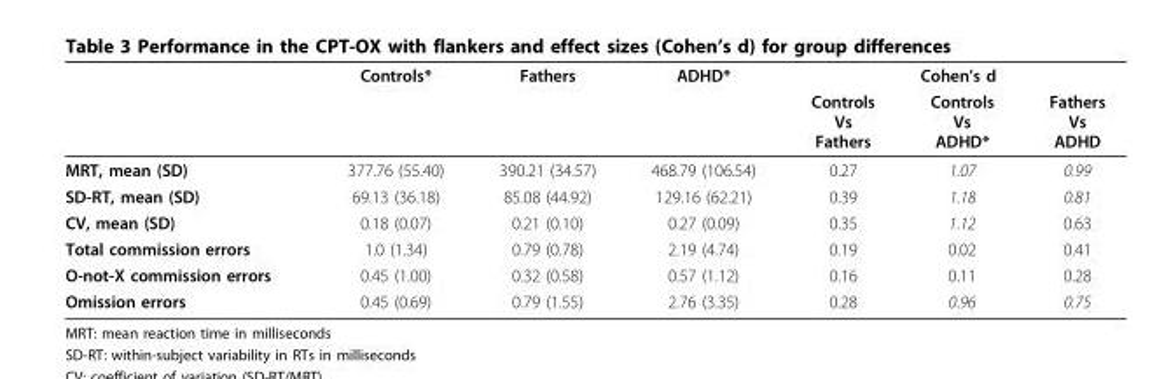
<table><thead><tr><td rowspan="2"></td><td rowspan="2">Controls*</td><td rowspan="2">Fathers</td><td rowspan="2">ADHD*</td><td colspan="3">Cohen’s d</td></tr><tr><td>Controls Vs Fathers</td><td>Controls Vs ADHD*</td><td>Fathers Vs ADHD</td></tr></thead><tbody><tr><td>MRT, mean (SD)</td><td>377.76 (55.40)</td><td>390.21 (34.57)</td><td>468.79 (106.54)</td><td>0.27</td><td>1.07</td><td>0.99</td></tr><tr><td>SD-RT, mean (SD)</td><td>69.13 (36.18)</td><td>85.08 (44.92)</td><td>129.16 (62.21)</td><td>0.39</td><td>1.18</td><td>0.81</td></tr><tr><td>CV, mean (SD)</td><td>0.18 (0.07)</td><td>0.21 (0.10)</td><td>0.27 (0.09)</td><td>0.35</td><td>1.12</td><td>0.63</td></tr><tr><td>Total commission errors</td><td>1.0 (1.34)</td><td>0.79 (0.78)</td><td>2.19 (4.74)</td><td>0.19</td><td>0.02</td><td>0.41</td></tr><tr><td>O-not-X commission errors</td><td>0.45 (1.00)</td><td>0.32 (0.58)</td><td>0.57 (1.12)</td><td>0.16</td><td>0.11</td><td>0.28</td></tr><tr><td>Omission errors</td><td>0.45 (0.69)</td><td>0.79 (1.55)</td><td>2.76 (3.35)</td><td>0.28</td><td>0.96</td><td>0.75</td></tr></tbody></table>